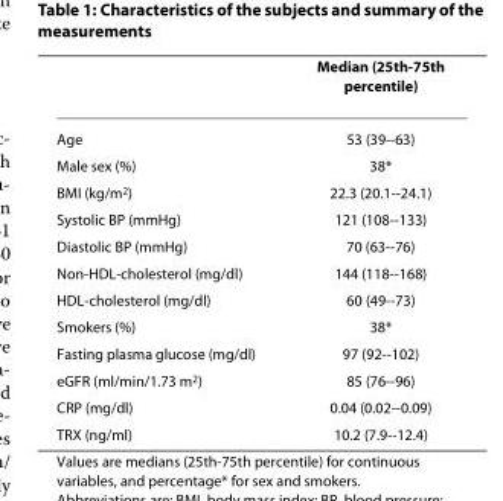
<table><thead><tr><td></td><td>Median (25th-75th percentile)</td></tr></thead><tbody><tr><td>Age</td><td>53 (39--63)</td></tr><tr><td>Male sex (%)</td><td>38*</td></tr><tr><td>BMI (kg/m<sup>2</sup>)</td><td>22.3 (20.1--24.1)</td></tr><tr><td>Systolic BP (mmHg)</td><td>121 (108--133)</td></tr><tr><td>Diastolic BP (mmHg)</td><td>70 (63--76)</td></tr><tr><td>Non-HDL-cholesterol (mg/dl)</td><td>144 (118--168)</td></tr><tr><td>HDL-cholesterol (mg/dl)</td><td>60 (49--73)</td></tr><tr><td>Smokers (%)</td><td>38*</td></tr><tr><td>Fasting plasma glucose (mg/dl)</td><td>97 (92--102)</td></tr><tr><td>eGFR (ml/min/1.73 m<sup>2</sup>)</td><td>85 (76--96)</td></tr><tr><td>CRP (mg/dl)</td><td>0.04 (0.02--0.09)</td></tr><tr><td>TRX (ng/ml)</td><td>10.2 (7.9--12.4)</td></tr></tbody></table>